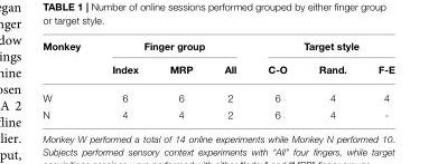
<table><thead><tr><td rowspan="2">Monkey</td><td colspan="3">Finger group</td><td colspan="3">Target style</td></tr><tr><td>Index</td><td>MRP</td><td>All</td><td>C-O</td><td>Rand.</td><td>F-E</td></tr></thead><tbody><tr><td>W</td><td>6</td><td>6</td><td>2</td><td>6</td><td>4</td><td>4</td></tr><tr><td>N</td><td>4</td><td>4</td><td>2</td><td>6</td><td>4</td><td>-</td></tr></tbody></table>